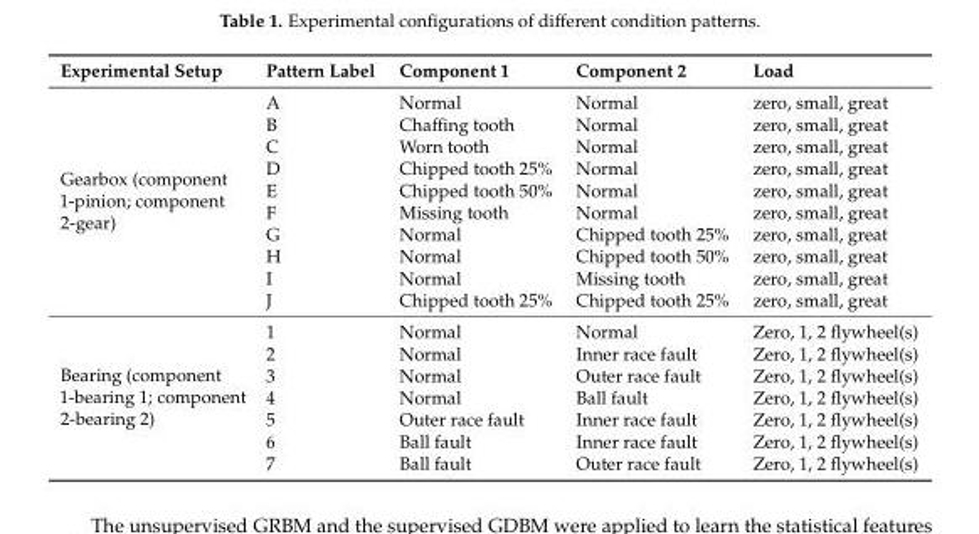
<table><thead><tr><td>Experimental Setup</td><td>Pattern Label</td><td>Component 1</td><td>Component 2</td><td>Load</td></tr></thead><tbody><tr><td rowspan="10">Gearbox (component 1-pinion; component 2-gear)</td><td>A</td><td>Normal</td><td>Normal</td><td>zero, small, great</td></tr><tr><td>B</td><td>Chaffing tooth</td><td>Normal</td><td>zero, small, great</td></tr><tr><td>C</td><td>Worn tooth</td><td>Normal</td><td>zero, small, great</td></tr><tr><td>D</td><td>Chipped tooth 25%</td><td>Normal</td><td>zero, small, great</td></tr><tr><td>E</td><td>Chipped tooth 50%</td><td>Normal</td><td>zero, small, great</td></tr><tr><td>F</td><td>Missing tooth</td><td>Normal</td><td>zero, small, great</td></tr><tr><td>G</td><td>Normal</td><td>Chipped tooth 25%</td><td>zero, small, great</td></tr><tr><td>H</td><td>Normal</td><td>Chipped tooth 50%</td><td>zero, small, great</td></tr><tr><td>I</td><td>Normal</td><td>Missing tooth</td><td>zero, small, great</td></tr><tr><td>J</td><td>Chipped tooth 25%</td><td>Chipped tooth 25%</td><td>zero, small, great</td></tr><tr><td rowspan="7">Bearing (component 1-bearing 1; component 2-bearing 2)</td><td>1</td><td>Normal</td><td>Normal</td><td>Zero, 1, 2 flywheel(s)</td></tr><tr><td>2</td><td>Normal</td><td>Inner race fault</td><td>Zero, 1, 2 flywheel(s)</td></tr><tr><td>3</td><td>Normal</td><td>Outer race fault</td><td>Zero, 1, 2 flywheel(s)</td></tr><tr><td>4</td><td>Normal</td><td>Ball fault</td><td>Zero, 1, 2 flywheel(s)</td></tr><tr><td>5</td><td>Outer race fault</td><td>Inner race fault</td><td>Zero, 1, 2 flywheel(s)</td></tr><tr><td>6</td><td>Ball fault</td><td>Inner race fault</td><td>Zero, 1, 2 flywheel(s)</td></tr><tr><td>7</td><td>Ball fault</td><td>Outer race fault</td><td>Zero, 1, 2 flywheel(s)</td></tr></tbody></table>